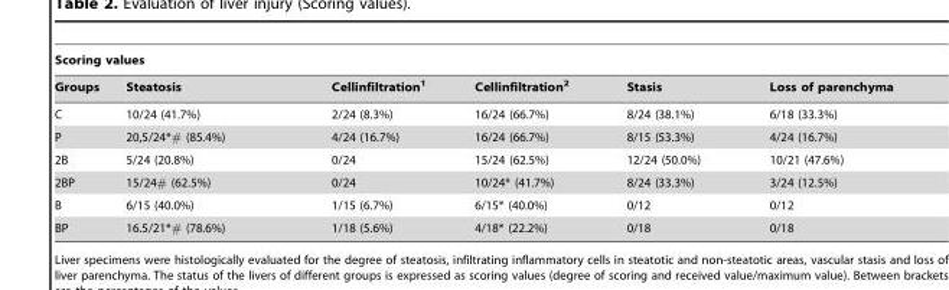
<table><thead><tr><td colspan="6">Scoring values</td></tr><tr><td>Groups</td><td>Steatosis</td><td>Cellinfiltration<sup>1</sup></td><td>Cellinfiltration<sup>2</sup></td><td>Stasis</td><td>Loss of parenchyma</td></tr></thead><tbody><tr><td>C</td><td>10/24 (41.7%)</td><td>2/24 (8.3%)</td><td>16/24 (66.7%)</td><td>8/24 (38.1%)</td><td>6/18 (33.3%)</td></tr><tr><td>P</td><td>20,5/24*# (85.4%)</td><td>4/24 (16.7%)</td><td>16/24 (66.7%)</td><td>8/15 (53.3%)</td><td>4/24 (16.7%)</td></tr><tr><td>2B</td><td>5/24 (20.8%)</td><td>0/24</td><td>15/24 (62.5%)</td><td>12/24 (50.0%)</td><td>10/21 (47.6%)</td></tr><tr><td>2BP</td><td>15/24# (62.5%)</td><td>0/24</td><td>10/24* (41.7%)</td><td>8/24 (33.3%)</td><td>3/24 (12.5%)</td></tr><tr><td>B</td><td>6/15 (40.0%)</td><td>1/15 (6.7%)</td><td>6/15* (40.0%)</td><td>0/12</td><td>0/12</td></tr><tr><td>BP</td><td>16.5/21*# (78.6%)</td><td>1/18 (5.6%)</td><td>4/18* (22.2%)</td><td>0/18</td><td>0/18</td></tr></tbody></table>